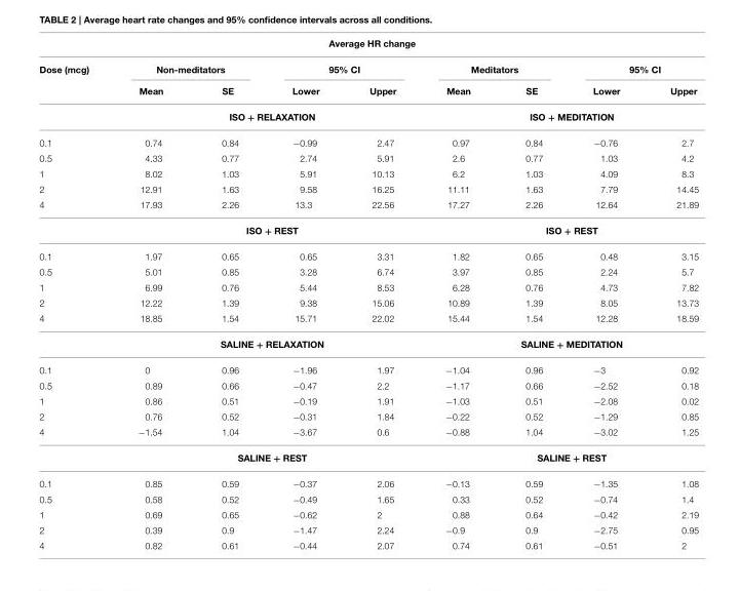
<table><thead><tr><td colspan="9">Average HR change</td></tr><tr><td rowspan="2">Dose (mcg)</td><td colspan="2">Non-meditators</td><td colspan="2">95% CI</td><td colspan="2">Meditators</td><td colspan="2">95% CI</td></tr><tr><td>Mean</td><td>SE</td><td>Lower</td><td>Upper</td><td>Mean</td><td>SE</td><td>Lower</td><td>Upper</td></tr></thead><tbody><tr><td colspan="5">ISO + RELAXATION</td><td colspan="4">ISO + MEDITATION</td></tr><tr><td>0.1</td><td>0.74</td><td>0.84</td><td>−0.99</td><td>2.47</td><td>0.97</td><td>0.84</td><td>−0.76</td><td>2.7</td></tr><tr><td>0.5</td><td>4.33</td><td>0.77</td><td>2.74</td><td>5.91</td><td>2.6</td><td>0.77</td><td>1.03</td><td>4.2</td></tr><tr><td>1</td><td>8.02</td><td>1.03</td><td>5.91</td><td>10.13</td><td>6.2</td><td>1.03</td><td>4.09</td><td>8.3</td></tr><tr><td>2</td><td>12.91</td><td>1.63</td><td>9.58</td><td>16.25</td><td>11.11</td><td>1.63</td><td>7.79</td><td>14.45</td></tr><tr><td>4</td><td>17.93</td><td>2.26</td><td>13.3</td><td>22.56</td><td>17.27</td><td>2.26</td><td>12.64</td><td>21.89</td></tr><tr><td colspan="5">ISO + REST</td><td colspan="4">ISO + REST</td></tr><tr><td>0.1</td><td>1.97</td><td>0.65</td><td>0.65</td><td>3.31</td><td>1.82</td><td>0.65</td><td>0.48</td><td>3.15</td></tr><tr><td>0.5</td><td>5.01</td><td>0.85</td><td>3.28</td><td>6.74</td><td>3.97</td><td>0.85</td><td>2.24</td><td>5.7</td></tr><tr><td>1</td><td>6.99</td><td>0.76</td><td>5.44</td><td>8.53</td><td>6.28</td><td>0.76</td><td>4.73</td><td>7.82</td></tr><tr><td>2</td><td>12.22</td><td>1.39</td><td>9.38</td><td>15.06</td><td>10.89</td><td>1.39</td><td>8.05</td><td>13.73</td></tr><tr><td>4</td><td>18.85</td><td>1.54</td><td>15.71</td><td>22.02</td><td>15.44</td><td>1.54</td><td>12.28</td><td>18.59</td></tr><tr><td colspan="5">SALINE + RELAXATION</td><td colspan="4">SALINE + MEDITATION</td></tr><tr><td>0.1</td><td>0</td><td>0.96</td><td>−1.96</td><td>1.97</td><td>−1.04</td><td>0.96</td><td>−3</td><td>0.92</td></tr><tr><td>0.5</td><td>0.89</td><td>0.66</td><td>−0.47</td><td>2.2</td><td>−1.17</td><td>0.66</td><td>−2.52</td><td>0.18</td></tr><tr><td>1</td><td>0.86</td><td>0.51</td><td>−0.19</td><td>1.91</td><td>−1.03</td><td>0.51</td><td>−2.08</td><td>0.02</td></tr><tr><td>2</td><td>0.76</td><td>0.52</td><td>−0.31</td><td>1.84</td><td>−0.22</td><td>0.52</td><td>−1.29</td><td>0.85</td></tr><tr><td>4</td><td>−1.54</td><td>1.04</td><td>−3.67</td><td>0.6</td><td>−0.88</td><td>1.04</td><td>−3.02</td><td>1.25</td></tr><tr><td colspan="5">SALINE + REST</td><td colspan="4">SALINE + REST</td></tr><tr><td>0.1</td><td>0.85</td><td>0.59</td><td>−0.37</td><td>2.06</td><td>−0.13</td><td>0.59</td><td>−1.35</td><td>1.08</td></tr><tr><td>0.5</td><td>0.58</td><td>0.52</td><td>−0.49</td><td>1.65</td><td>0.33</td><td>0.52</td><td>−0.74</td><td>1.4</td></tr><tr><td>1</td><td>0.69</td><td>0.65</td><td>−0.62</td><td>2</td><td>0.88</td><td>0.64</td><td>−0.42</td><td>2.19</td></tr><tr><td>2</td><td>0.39</td><td>0.9</td><td>−1.47</td><td>2.24</td><td>−0.9</td><td>0.9</td><td>−2.75</td><td>0.95</td></tr><tr><td>4</td><td>0.82</td><td>0.61</td><td>−0.44</td><td>2.07</td><td>0.74</td><td>0.61</td><td>−0.51</td><td>2</td></tr></tbody></table>